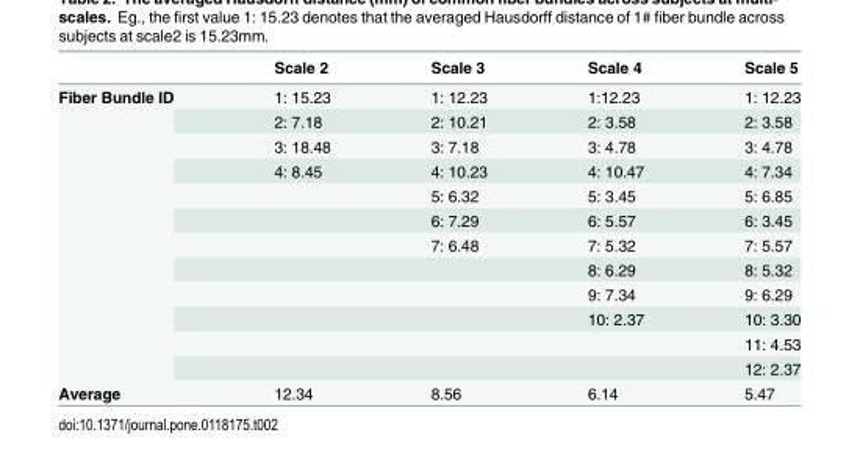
<table><thead><tr><td></td><td>Scale 2</td><td>Scale 3</td><td>Scale 4</td><td>Scale 5</td></tr></thead><tbody><tr><td rowspan="12">Fiber Bundle ID</td><td>1: 15.23</td><td>1: 12.23</td><td>1:12.23</td><td>1: 12.23</td></tr><tr><td>2: 7.18</td><td>2: 10.21</td><td>2: 3.58</td><td>2: 3.58</td></tr><tr><td>3: 18.48</td><td>3: 7.18</td><td>3: 4.78</td><td>3: 4.78</td></tr><tr><td>4: 8.45</td><td>4: 10.23</td><td>4: 10.47</td><td>4: 7.34</td></tr><tr><td></td><td>5: 6.32</td><td>5: 3.45</td><td>5: 6.85</td></tr><tr><td></td><td>6: 7.29</td><td>6: 5.57</td><td>6: 3.45</td></tr><tr><td></td><td>7: 6.48</td><td>7: 5.32</td><td>7: 5.57</td></tr><tr><td></td><td></td><td>8: 6.29</td><td>8: 5.32</td></tr><tr><td></td><td></td><td>9: 7.34</td><td>9: 6.29</td></tr><tr><td></td><td></td><td>10: 2.37</td><td>10: 3.30</td></tr><tr><td></td><td></td><td></td><td>11: 4.53</td></tr><tr><td></td><td></td><td></td><td>12: 2.37</td></tr><tr><td>Average</td><td>12.34</td><td>8.56</td><td>6.14</td><td>5.47</td></tr></tbody></table>